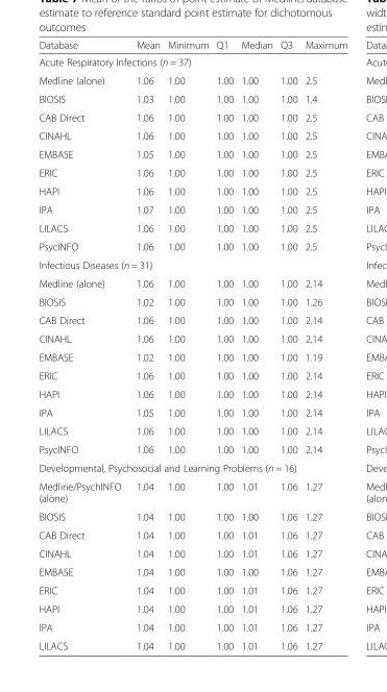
<table><thead><tr><td>Database</td><td>Mean</td><td>Minimum</td><td>Q1</td><td>Median</td><td>Q3</td><td>Maximum</td></tr></thead><tbody><tr><td colspan="7">Acute Respiratory Infections (n = 37)</td></tr><tr><td>Medline (alone)</td><td>1.06</td><td>1.00</td><td>1.00</td><td>1.00</td><td>1.00</td><td>2.5</td></tr><tr><td>BIOSIS</td><td>1.03</td><td>1.00</td><td>1.00</td><td>1.00</td><td>1.00</td><td>1.4</td></tr><tr><td>CAB Direct</td><td>1.06</td><td>1.00</td><td>1.00</td><td>1.00</td><td>1.00</td><td>2.5</td></tr><tr><td>CINAHL</td><td>1.06</td><td>1.00</td><td>1.00</td><td>1.00</td><td>1.00</td><td>2.5</td></tr><tr><td>EMBASE</td><td>1.05</td><td>1.00</td><td>1.00</td><td>1.00</td><td>1.00</td><td>2.5</td></tr><tr><td>ERIC</td><td>1.06</td><td>1.00</td><td>1.00</td><td>1.00</td><td>1.00</td><td>2.5</td></tr><tr><td>HAPI</td><td>1.06</td><td>1.00</td><td>1.00</td><td>1.00</td><td>1.00</td><td>2.5</td></tr><tr><td>IPA</td><td>1.07</td><td>1.00</td><td>1.00</td><td>1.00</td><td>1.00</td><td>2.5</td></tr><tr><td>LILACS</td><td>1.06</td><td>1.00</td><td>1.00</td><td>1.00</td><td>1.00</td><td>2.5</td></tr><tr><td>PsycINFO</td><td>1.06</td><td>1.00</td><td>1.00</td><td>1.00</td><td>1.00</td><td>2.5</td></tr><tr><td colspan="7">Infectious Diseases (n = 31)</td></tr><tr><td>Medline (alone)</td><td>1.06</td><td>1.00</td><td>1.00</td><td>1.00</td><td>1.00</td><td>2.14</td></tr><tr><td>BIOSIS</td><td>1.02</td><td>1.00</td><td>1.00</td><td>1.00</td><td>1.00</td><td>1.26</td></tr><tr><td>CAB Direct</td><td>1.06</td><td>1.00</td><td>1.00</td><td>1.00</td><td>1.00</td><td>2.14</td></tr><tr><td>CINAHL</td><td>1.06</td><td>1.00</td><td>1.00</td><td>1.00</td><td>1.00</td><td>2.14</td></tr><tr><td>EMBASE</td><td>1.02</td><td>1.00</td><td>1.00</td><td>1.00</td><td>1.00</td><td>1.19</td></tr><tr><td>ERIC</td><td>1.06</td><td>1.00</td><td>1.00</td><td>1.00</td><td>1.00</td><td>2.14</td></tr><tr><td>HAPI</td><td>1.06</td><td>1.00</td><td>1.00</td><td>1.00</td><td>1.00</td><td>2.14</td></tr><tr><td>IPA</td><td>1.05</td><td>1.00</td><td>1.00</td><td>1.00</td><td>1.00</td><td>2.14</td></tr><tr><td>LILACS</td><td>1.06</td><td>1.00</td><td>1.00</td><td>1.00</td><td>1.00</td><td>2.14</td></tr><tr><td>PsycINFO</td><td>1.06</td><td>1.00</td><td>1.00</td><td>1.00</td><td>1.00</td><td>2.14</td></tr><tr><td colspan="7">Developmental, Psychosocial and Learning Problems (n = 16)</td></tr><tr><td>Medline/PsychINFO (alone)</td><td>1.04</td><td>1.00</td><td>1.00</td><td>1.01</td><td>1.06</td><td>1.27</td></tr><tr><td>BIOSIS</td><td>1.04</td><td>1.00</td><td>1.00</td><td>1.00</td><td>1.06</td><td>1.27</td></tr><tr><td>CAB Direct</td><td>1.04</td><td>1.00</td><td>1.00</td><td>1.01</td><td>1.06</td><td>1.27</td></tr><tr><td>CINAHL</td><td>1.04</td><td>1.00</td><td>1.00</td><td>1.01</td><td>1.06</td><td>1.27</td></tr><tr><td>EMBASE</td><td>1.04</td><td>1.00</td><td>1.00</td><td>1.00</td><td>1.06</td><td>1.27</td></tr><tr><td>ERIC</td><td>1.04</td><td>1.00</td><td>1.00</td><td>1.01</td><td>1.06</td><td>1.27</td></tr><tr><td>HAPI</td><td>1.04</td><td>1.00</td><td>1.00</td><td>1.01</td><td>1.06</td><td>1.27</td></tr><tr><td>IPA</td><td>1.04</td><td>1.00</td><td>1.00</td><td>1.01</td><td>1.06</td><td>1.27</td></tr><tr><td>LILACS</td><td>1.04</td><td>1.00</td><td>1.00</td><td>1.01</td><td>1.06</td><td>1.27</td></tr></tbody></table>